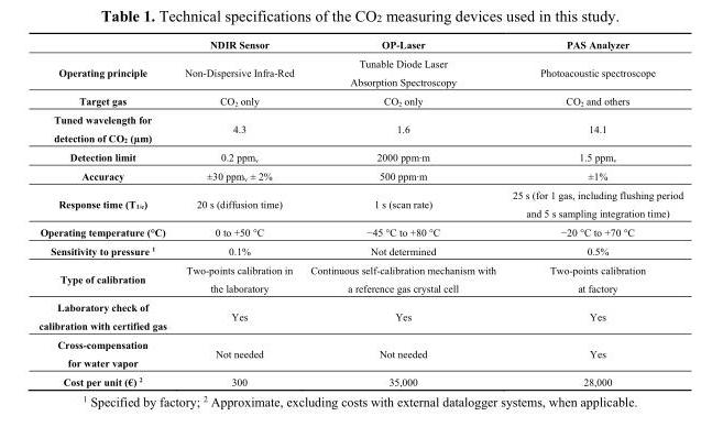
<table><thead><tr><td></td><td>NDIR Sensor</td><td>OP-Laser</td><td>PAS Analyzer</td></tr></thead><tbody><tr><td>Operating principle</td><td>Non-Dispersive Infra-Red</td><td>Tunable Diode Laser Absorption Spectroscopy</td><td>Photoacoustic spectroscope</td></tr><tr><td>Target gas</td><td>CO<sub>2</sub> only</td><td>CO<sub>2</sub> only</td><td>CO<sub>2</sub> and others</td></tr><tr><td>Tuned wavelength for detection of CO<sub>2</sub> (µm)</td><td>4.3</td><td>1.6</td><td>14.1</td></tr><tr><td>Detection limit</td><td>0.2 ppm<sub>v</sub></td><td>2000 ppm·m</td><td>1.5 ppm<sub>v</sub></td></tr><tr><td>Accuracy</td><td>±30 ppm<sub>v</sub> ± 2%</td><td>500 ppm·m</td><td>±1%</td></tr><tr><td>Response time (T<sub>1/e</sub>)</td><td>20 s (diffusion time)</td><td>1 s (scan rate)</td><td>25 s (for 1 gas, including flushing period and 5 s sampling integration time)</td></tr><tr><td>Operating temperature (°C)</td><td>0 to +50 °C</td><td>−45 °C to +80 °C</td><td>−20 °C to +70 °C</td></tr><tr><td>Sensitivity to pressure <sup>1</sup></td><td>0.1%</td><td>Not determined</td><td>0.5%</td></tr><tr><td>Type of calibration</td><td>Two-points calibration in the laboratory</td><td>Continuous self-calibration mechanism with a reference gas crystal cell</td><td>Two-points calibration at factory</td></tr><tr><td>Laboratory check of calibration with certified gas</td><td>Yes</td><td>Yes</td><td>Yes</td></tr><tr><td>Cross-compensation for water vapor</td><td>Not needed</td><td>Not needed</td><td>Yes</td></tr><tr><td>Cost per unit (€) <sup>2</sup></td><td>300</td><td>35,000</td><td>28,000</td></tr></tbody></table>